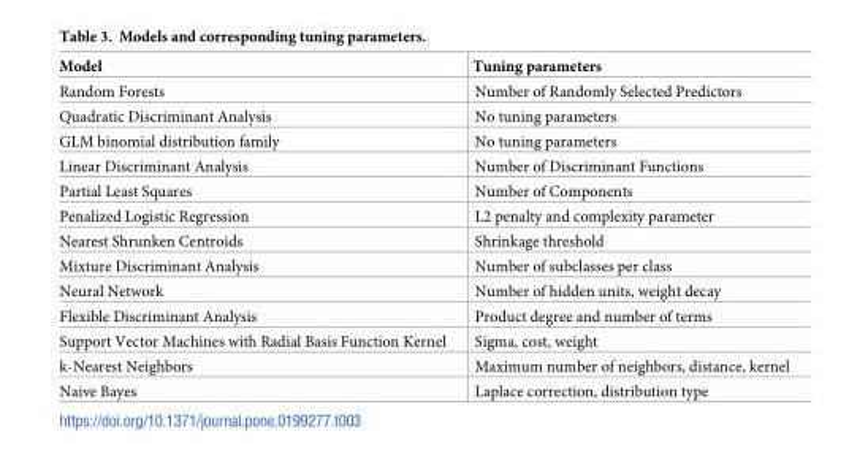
<table><thead><tr><td>Model</td><td>Tuning parameters</td></tr></thead><tbody><tr><td>Random Forests</td><td>Number of Randomly Selected Predictors</td></tr><tr><td>Quadratic Discriminant Analysis</td><td>No tuning parameters</td></tr><tr><td>GLM binomial distribution family</td><td>No tuning parameters</td></tr><tr><td>Linear Discriminant Analysis</td><td>Number of Discriminant Functions</td></tr><tr><td>Partial Least Squares</td><td>Number of Components</td></tr><tr><td>Penalized Logistic Regression</td><td>L2 penalty and complexity parameter</td></tr><tr><td>Nearest Shrunken Centroids</td><td>Shrinkage threshold</td></tr><tr><td>Mixture Discriminant Analysis</td><td>Number of subclasses per class</td></tr><tr><td>Neural Network</td><td>Number of hidden units, weight decay</td></tr><tr><td>Flexible Discriminant Analysis</td><td>Product degree and number of terms</td></tr><tr><td>Support Vector Machines with Radial Basis Function Kernel</td><td>Sigma, cost, weight</td></tr><tr><td>k-Nearest Neighbors</td><td>Maximum number of neighbors, distance, kernel</td></tr><tr><td>Naive Bayes</td><td>Laplace correction, distribution type</td></tr></tbody></table>